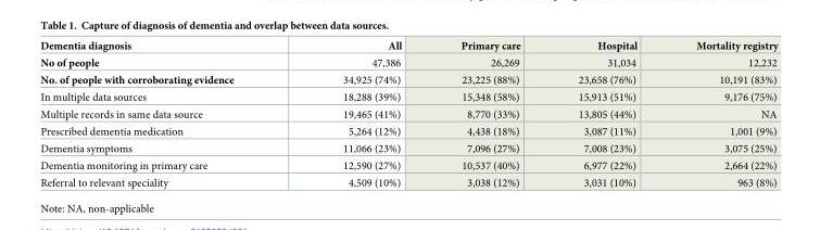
<table><thead><tr><td>Dementia diagnosis</td><td>All</td><td>Primary care</td><td>Hospital</td><td>Mortality registry</td></tr></thead><tbody><tr><td>No of people</td><td>47,386</td><td>26,269</td><td>31,034</td><td>12,232</td></tr><tr><td>No. of people with corroborating evidence</td><td>34,925 (74%)</td><td>23,225 (88%)</td><td>23,658 (76%)</td><td>10,191 (83%)</td></tr><tr><td>In multiple data sources</td><td>18,288 (39%)</td><td>15,348 (58%)</td><td>15,913 (51%)</td><td>9,176 (75%)</td></tr><tr><td>Multiple records in same data source</td><td>19,465 (41%)</td><td>8,770 (33%)</td><td>13,805 (44%)</td><td>NA</td></tr><tr><td>Prescribed dementia medication</td><td>5,264 (12%)</td><td>4,438 (18%)</td><td>3,087 (11%)</td><td>1,001 (9%)</td></tr><tr><td>Dementia symptoms</td><td>11,066 (23%)</td><td>7,096 (27%)</td><td>7,008 (23%)</td><td>3,075 (25%)</td></tr><tr><td>Dementia monitoring in primary care</td><td>12,590 (27%)</td><td>10,537 (40%)</td><td>6,977 (22%)</td><td>2,664 (22%)</td></tr><tr><td>Referral to relevant speciality</td><td>4,509 (10%)</td><td>3,038 (12%)</td><td>3,031 (10%)</td><td>963 (8%)</td></tr></tbody></table>